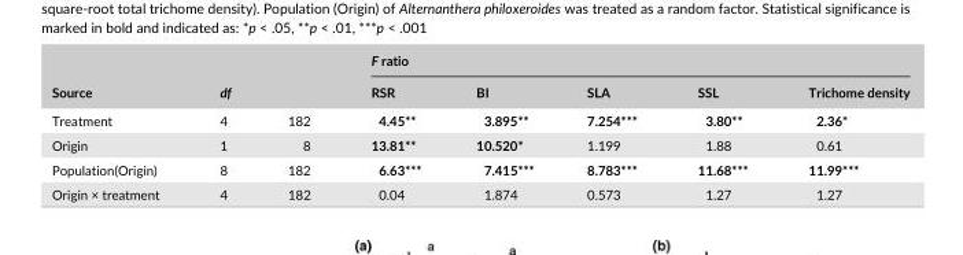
<table><thead><tr><td rowspan="3">Source Treatment</td><td rowspan="2" colspan="2">df</td><td colspan="5">F ratio</td></tr><tr><td rowspan="2">RSR 4.45**</td><td rowspan="2">BI 3.895**</td><td rowspan="2">SLA 7.254***</td><td rowspan="2">SSL 3.80**</td><td rowspan="2">Trichome density 2.36*</td></tr><tr><td>4</td><td>182</td></tr></thead><tbody><tr><td>Origin</td><td>1</td><td>8</td><td>13.81**</td><td>10.520*</td><td>1.199</td><td>1.88</td><td>0.61</td></tr><tr><td>Population(Origin)</td><td>8</td><td>182</td><td>6.63***</td><td>7.415***</td><td>8.783***</td><td>11.68***</td><td>11.99***</td></tr><tr><td>Origin × treatment</td><td>4</td><td>182</td><td>0.04</td><td>1.874</td><td>0.573</td><td>1.27</td><td>1.27</td></tr></tbody></table>